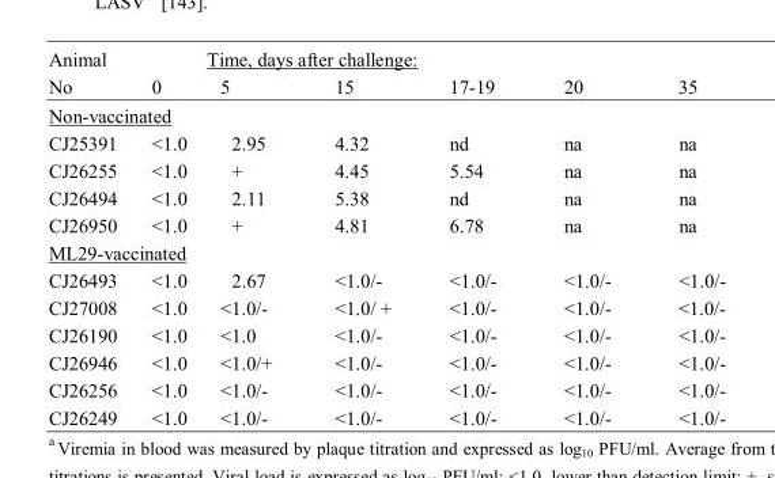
<table><thead><tr><td rowspan="2">Animal No</td><td colspan="6">Time, days after challenge:</td></tr><tr><td>0</td><td>5</td><td>15</td><td>17-19</td><td>20</td><td>35</td></tr></thead><tbody><tr><td colspan="7">Non-vaccinated</td></tr><tr><td>CJ25391</td><td>&lt;1.0</td><td>2.95</td><td>4.32</td><td>nd</td><td>na</td><td>na</td></tr><tr><td>CJ26255</td><td>&lt;1.0</td><td>+</td><td>4.45</td><td>5.54</td><td>na</td><td>na</td></tr><tr><td>CJ26494</td><td>&lt;1.0</td><td>2.11</td><td>5.38</td><td>nd</td><td>na</td><td>na</td></tr><tr><td>CJ26950</td><td>&lt;1.0</td><td>+</td><td>4.81</td><td>6.78</td><td>na</td><td>na</td></tr><tr><td colspan="7">ML29-vaccinated</td></tr><tr><td>CJ26493</td><td>&lt;1.0</td><td>2.67</td><td>&lt;1.0/-</td><td>&lt;1.0/-</td><td>&lt;1.0/-</td><td>&lt;1.0/-</td></tr><tr><td>CJ27008</td><td>&lt;1.0</td><td>&lt;1.0/-</td><td>&lt;1.0/ +</td><td>&lt;1.0/-</td><td>&lt;1.0/-</td><td>&lt;1.0/-</td></tr><tr><td>CJ26190</td><td>&lt;1.0</td><td>&lt;1.0</td><td>&lt;1.0/-</td><td>&lt;1.0/-</td><td>&lt;1.0/-</td><td>&lt;1.0/-</td></tr><tr><td>CJ26946</td><td>&lt;1.0</td><td>&lt;1.0/+</td><td>&lt;1.0/-</td><td>&lt;1.0/-</td><td>&lt;1.0/-</td><td>&lt;1.0/-</td></tr><tr><td>CJ26256</td><td>&lt;1.0</td><td>&lt;1.0/-</td><td>&lt;1.0/-</td><td>&lt;1.0/-</td><td>&lt;1.0/-</td><td>&lt;1.0/-</td></tr><tr><td>CJ26249</td><td>&lt;1.0</td><td>&lt;1.0/-</td><td>&lt;1.0/-</td><td>&lt;1.0/-</td><td>&lt;1.0/-</td><td>&lt;1.0/-</td></tr></tbody></table>